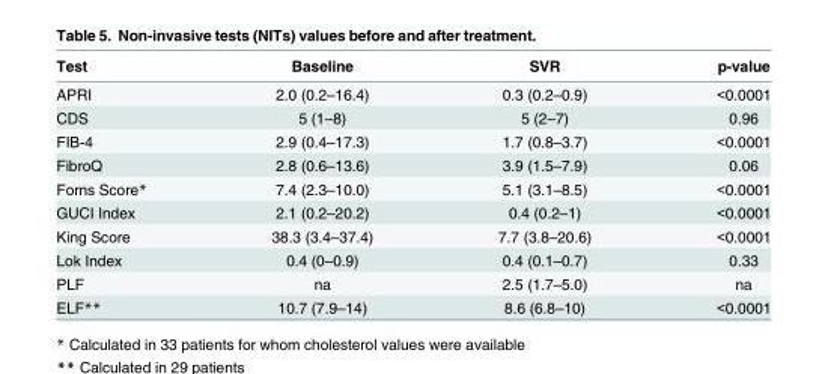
<table><thead><tr><td>Test</td><td>Baseline</td><td>SVR</td><td>p-value</td></tr></thead><tbody><tr><td>APRI</td><td>2.0 (0.2–16.4)</td><td>0.3 (0.2–0.9)</td><td>&lt;0.0001</td></tr><tr><td>CDS</td><td>5 (1–8)</td><td>5 (2–7)</td><td>0.96</td></tr><tr><td>FIB-4</td><td>2.9 (0.4–17.3)</td><td>1.7 (0.8–3.7)</td><td>&lt;0.0001</td></tr><tr><td>FibroQ</td><td>2.8 (0.6–13.6)</td><td>3.9 (1.5–7.9)</td><td>0.06</td></tr><tr><td>Forns Score*</td><td>7.4 (2.3–10.0)</td><td>5.1 (3.1–8.5)</td><td>&lt;0.0001</td></tr><tr><td>GUCI Index</td><td>2.1 (0.2–20.2)</td><td>0.4 (0.2–1)</td><td>&lt;0.0001</td></tr><tr><td>King Score</td><td>38.3 (3.4–37.4)</td><td>7.7 (3.8–20.6)</td><td>&lt;0.0001</td></tr><tr><td>Lok Index</td><td>0.4 (0–0.9)</td><td>0.4 (0.1–0.7)</td><td>0.33</td></tr><tr><td>PLF</td><td>na</td><td>2.5 (1.7–5.0)</td><td>na</td></tr><tr><td>ELF**</td><td>10.7 (7.9–14)</td><td>8.6 (6.8–10)</td><td>&lt;0.0001</td></tr></tbody></table>